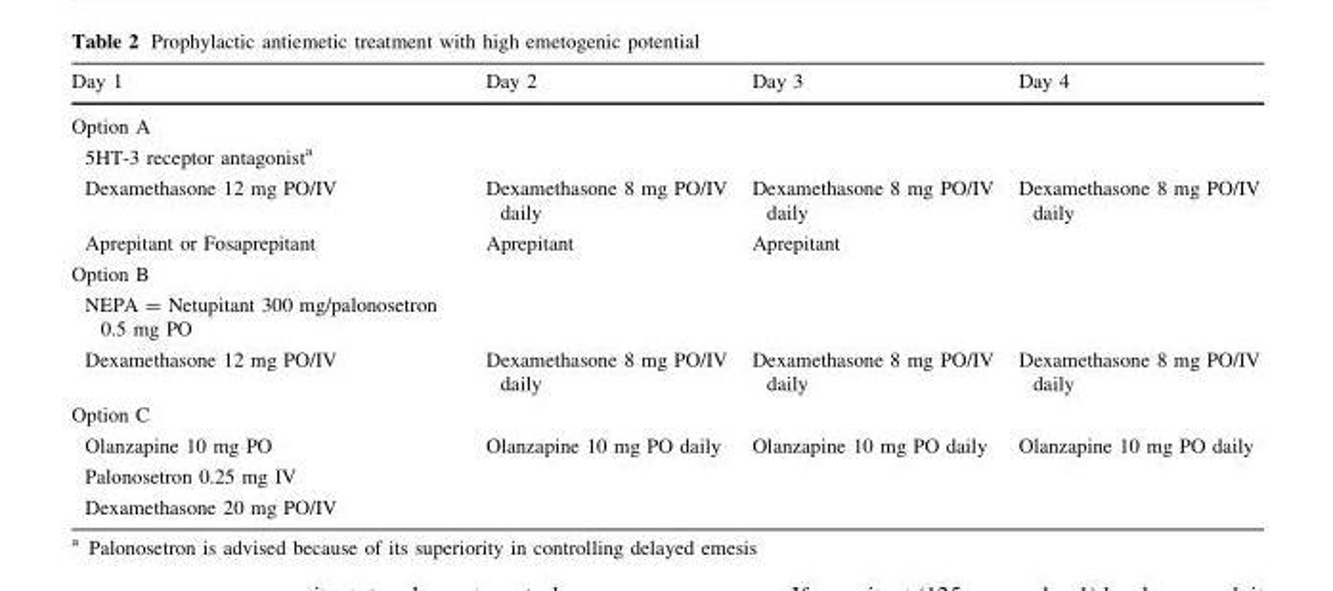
<table><thead><tr><td>Day 1</td><td>Day 2</td><td>Day 3</td><td>Day 4</td></tr></thead><tbody><tr><td colspan="4">Option A</td></tr><tr><td colspan="4">5HT-3 receptor antagonist<sup>a</sup></td></tr><tr><td>Dexamethasone 12 mg PO/IV</td><td>Dexamethasone 8 mg PO/IV daily</td><td>Dexamethasone 8 mg PO/IV daily</td><td>Dexamethasone 8 mg PO/IV daily</td></tr><tr><td>Aprepitant or Fosaprepitant</td><td>Aprepitant</td><td>Aprepitant</td><td></td></tr><tr><td colspan="4">Option B</td></tr><tr><td colspan="4">NEPA = Netupitant 300 mg/palonosetron 0.5 mg PO</td></tr><tr><td>Dexamethasone 12 mg PO/IV</td><td>Dexamethasone 8 mg PO/IV daily</td><td>Dexamethasone 8 mg PO/IV daily</td><td>Dexamethasone 8 mg PO/IV daily</td></tr><tr><td colspan="4">Option C</td></tr><tr><td>Olanzapine 10 mg PO</td><td>Olanzapine 10 mg PO daily</td><td>Olanzapine 10 mg PO daily</td><td>Olanzapine 10 mg PO daily</td></tr><tr><td colspan="4">Palonosetron 0.25 mg IV</td></tr><tr><td>Dexamethasone 20 mg PO/IV</td><td></td><td></td><td></td></tr></tbody></table>